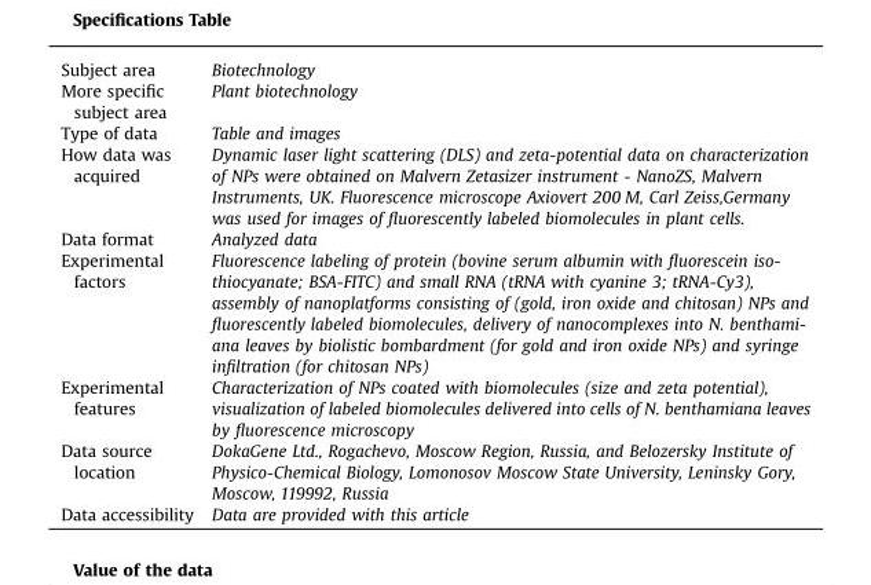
<table><tbody><tr><td>Subject area</td><td>Biotechnology</td></tr><tr><td>More specific subject area</td><td>Plant biotechnology</td></tr><tr><td>Type of data</td><td>Table and images</td></tr><tr><td>How data was acquired</td><td>Dynamic laser light scattering (DLS) and zeta-potential data on characterization of NPs were obtained on Malvern Zetasizer instrument - NanoZS, Malvern Instruments, UK. Fluorescence microscope Axiovert 200 M, Carl Zeiss,Germany was used for images of fluorescently labeled biomolecules in plant cells.</td></tr><tr><td>Data format</td><td>Analyzed data</td></tr><tr><td>Experimental factors</td><td>Fluorescence labeling of protein (bovine serum albumin with fluorescein iso- thiocyanate; BSA-FITC) and small RNA (tRNA with cyanine 3; tRNA-Cy3), assembly of nanoplatforms consisting of (gold, iron oxide and chitosan) NPs and fluorescently labeled biomolecules, delivery of nanocomplexes into N. benthami- ana leaves by biolistic bombardment (for gold and iron oxide NPs) and syringe infiltration (for chitosan NPs)</td></tr><tr><td>Experimental features</td><td>Characterization of NPs coated with biomolecules (size and zeta potential), visualization of labeled biomolecules delivered into cells of N. benthamiana leaves by fluorescence microscopy</td></tr><tr><td>Data source location</td><td>DokaGene Ltd., Rogachevo, Moscow Region, Russia, and Belozersky Institute of Physico-Chemical Biology, Lomonosov Moscow State University, Leninsky Gory, Moscow, 119992, Russia</td></tr><tr><td>Data accessibility</td><td>Data are provided with this article</td></tr></tbody></table>